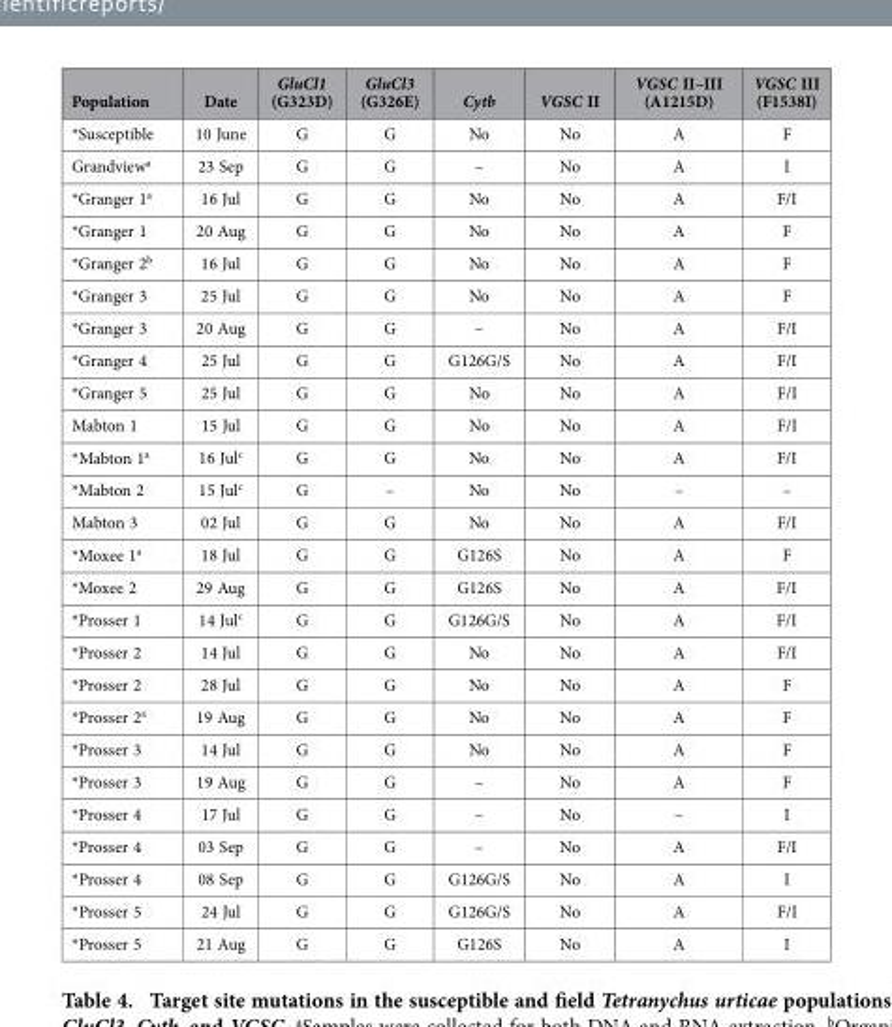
<table><thead><tr><td>Population</td><td>Date</td><td>GluCl1 (G323D)</td><td>GluCl3 (G326E)</td><td>Cytb</td><td>VGSC II</td><td>VGSC II–III (A1215D)</td><td>VGSC III (F1538I)</td></tr></thead><tbody><tr><td>*Susceptible</td><td>10 June</td><td>G</td><td>G</td><td>No</td><td>No</td><td>A</td><td>F</td></tr><tr><td>Grandview<sup>a</sup></td><td>23 Sep</td><td>G</td><td>G</td><td>–</td><td>No</td><td>A</td><td>I</td></tr><tr><td>*Granger 1<sup>a</sup></td><td>16 Jul</td><td>G</td><td>G</td><td>No</td><td>No</td><td>A</td><td>F/I</td></tr><tr><td>*Granger 1</td><td>20 Aug</td><td>G</td><td>G</td><td>No</td><td>No</td><td>A</td><td>F</td></tr><tr><td>*Granger 2<sup>b</sup></td><td>16 Jul</td><td>G</td><td>G</td><td>No</td><td>No</td><td>A</td><td>F</td></tr><tr><td>*Granger 3</td><td>25 Jul</td><td>G</td><td>G</td><td>No</td><td>No</td><td>A</td><td>F</td></tr><tr><td>*Granger 3</td><td>20 Aug</td><td>G</td><td>G</td><td>–</td><td>No</td><td>A</td><td>F/I</td></tr><tr><td>*Granger 4</td><td>25 Jul</td><td>G</td><td>G</td><td>G126G/S</td><td>No</td><td>A</td><td>F/I</td></tr><tr><td>*Granger 5</td><td>25 Jul</td><td>G</td><td>G</td><td>No</td><td>No</td><td>A</td><td>F/I</td></tr><tr><td>Mabton 1</td><td>15 Jul</td><td>G</td><td>G</td><td>No</td><td>No</td><td>A</td><td>F/I</td></tr><tr><td>*Mabton 1<sup>a</sup></td><td>16 Jul<sup>c</sup></td><td>G</td><td>G</td><td>No</td><td>No</td><td>A</td><td>F/I</td></tr><tr><td>*Mabton 2</td><td>15 Jul<sup>c</sup></td><td>G</td><td>–</td><td>No</td><td>No</td><td>–</td><td>–</td></tr><tr><td>Mabton 3</td><td>02 Jul</td><td>G</td><td>G</td><td>No</td><td>No</td><td>A</td><td>F/I</td></tr><tr><td>*Moxee 1<sup>a</sup></td><td>18 Jul</td><td>G</td><td>G</td><td>G126S</td><td>No</td><td>A</td><td>F</td></tr><tr><td>*Moxee 2</td><td>29 Aug</td><td>G</td><td>G</td><td>G126S</td><td>No</td><td>A</td><td>F/I</td></tr><tr><td>*Prosser 1</td><td>14 Jul<sup>c</sup></td><td>G</td><td>G</td><td>G126G/S</td><td>No</td><td>A</td><td>F/I</td></tr><tr><td>*Prosser 2</td><td>14 Jul</td><td>G</td><td>G</td><td>No</td><td>No</td><td>A</td><td>F/I</td></tr><tr><td>*Prosser 2</td><td>28 Jul</td><td>G</td><td>G</td><td>No</td><td>No</td><td>A</td><td>F</td></tr><tr><td>*Prosser 2<sup>a</sup></td><td>19 Aug</td><td>G</td><td>G</td><td>No</td><td>No</td><td>A</td><td>F</td></tr><tr><td>*Prosser 3</td><td>14 Jul</td><td>G</td><td>G</td><td>No</td><td>No</td><td>A</td><td>F</td></tr><tr><td>*Prosser 3</td><td>19 Aug</td><td>G</td><td>G</td><td>–</td><td>No</td><td>A</td><td>F</td></tr><tr><td>*Prosser 4</td><td>17 Jul</td><td>G</td><td>G</td><td>–</td><td>No</td><td>–</td><td>I</td></tr><tr><td>*Prosser 4</td><td>03 Sep</td><td>G</td><td>G</td><td>–</td><td>No</td><td>A</td><td>F/I</td></tr><tr><td>*Prosser 4</td><td>08 Sep</td><td>G</td><td>G</td><td>G126G/S</td><td>No</td><td>A</td><td>I</td></tr><tr><td>*Prosser 5</td><td>24 Jul</td><td>G</td><td>G</td><td>G126G/S</td><td>No</td><td>A</td><td>F/I</td></tr><tr><td>*Prosser 5</td><td>21 Aug</td><td>G</td><td>G</td><td>G126S</td><td>No</td><td>A</td><td>I</td></tr></tbody></table>